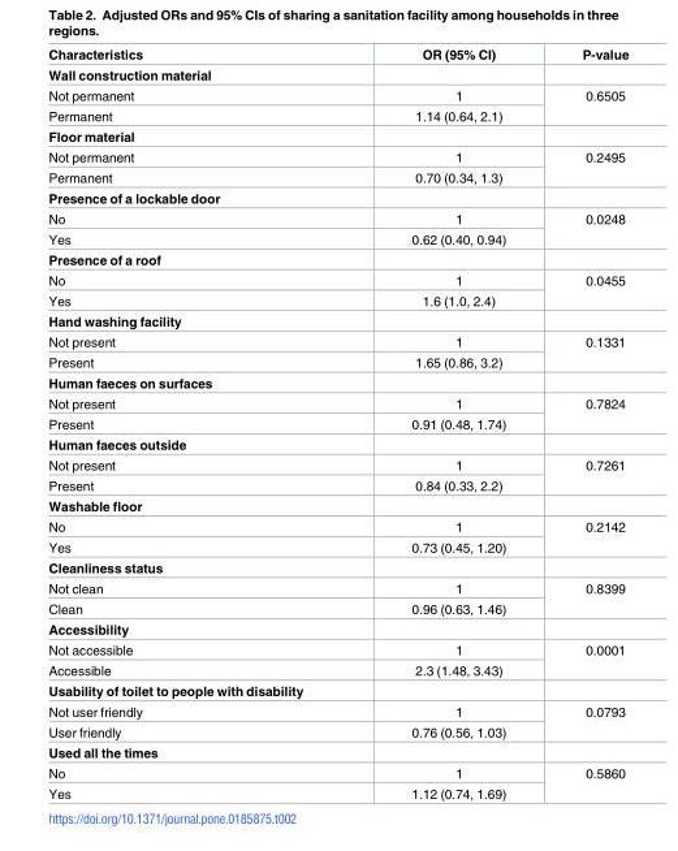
<table><thead><tr><td>Characteristics</td><td>OR (95% CI)</td><td>P-value</td></tr></thead><tbody><tr><td colspan="3">Wall construction material</td></tr><tr><td>Not permanent</td><td>1</td><td rowspan="2">0.6505</td></tr><tr><td>Permanent</td><td>1.14 (0.64, 2.1)</td></tr><tr><td colspan="3">Floor material</td></tr><tr><td>Not permanent</td><td>1</td><td rowspan="2">0.2495</td></tr><tr><td>Permanent</td><td>0.70 (0.34, 1.3)</td></tr><tr><td colspan="3">Presence of a lockable door</td></tr><tr><td>No</td><td>1</td><td rowspan="2">0.0248</td></tr><tr><td>Yes</td><td>0.62 (0.40, 0.94)</td></tr><tr><td colspan="3">Presence of a roof</td></tr><tr><td>No</td><td>1</td><td rowspan="2">0.0455</td></tr><tr><td>Yes</td><td>1.6 (1.0, 2.4)</td></tr><tr><td colspan="3">Hand washing facility</td></tr><tr><td>Not present</td><td>1</td><td rowspan="2">0.1331</td></tr><tr><td>Present</td><td>1.65 (0.86, 3.2)</td></tr><tr><td colspan="3">Human faeces on surfaces</td></tr><tr><td>Not present</td><td>1</td><td rowspan="2">0.7824</td></tr><tr><td>Present</td><td>0.91 (0.48, 1.74)</td></tr><tr><td colspan="3">Human faeces outside</td></tr><tr><td>Not present</td><td>1</td><td rowspan="2">0.7261</td></tr><tr><td>Present</td><td>0.84 (0.33, 2.2)</td></tr><tr><td colspan="3">Washable floor</td></tr><tr><td>No</td><td>1</td><td rowspan="2">0.2142</td></tr><tr><td>Yes</td><td>0.73 (0.45, 1.20)</td></tr><tr><td colspan="3">Cleanliness status</td></tr><tr><td>Not clean</td><td>1</td><td rowspan="2">0.8399</td></tr><tr><td>Clean</td><td>0.96 (0.63, 1.46)</td></tr><tr><td colspan="3">Accessibility</td></tr><tr><td>Not accessible</td><td>1</td><td rowspan="2">0.0001</td></tr><tr><td>Accessible</td><td>2.3 (1.48, 3.43)</td></tr><tr><td colspan="3">Usability of toilet to people with disability</td></tr><tr><td>Not user friendly</td><td>1</td><td rowspan="2">0.0793</td></tr><tr><td>User friendly</td><td>0.76 (0.56, 1.03)</td></tr><tr><td colspan="3">Used all the times</td></tr><tr><td>No</td><td>1</td><td rowspan="2">0.5860</td></tr><tr><td>Yes</td><td>1.12 (0.74, 1.69)</td></tr></tbody></table>